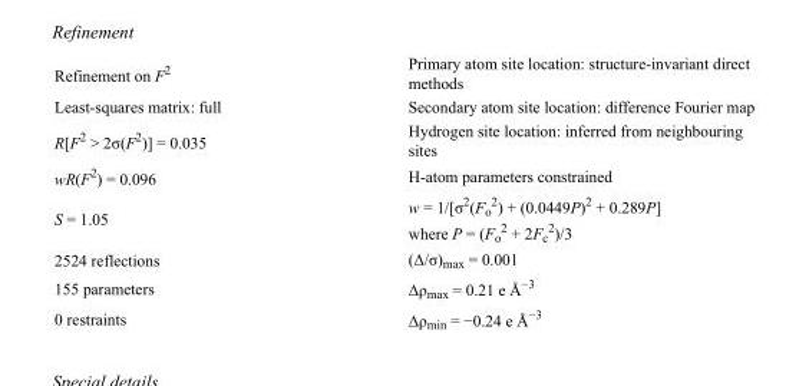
<table><tbody><tr><td>Refinement on F<sup>2</sup></td><td>Primary atom site location: structure-invariant direct methods</td></tr><tr><td>Least-squares matrix: full</td><td>Secondary atom site location: difference Fourier map</td></tr><tr><td>R[F<sup>2</sup> &gt; 2σ(F<sup>2</sup>)] = 0.035</td><td>Hydrogen site location: inferred from neighbouring sites</td></tr><tr><td>wR(F<sup>2</sup>) = 0.096</td><td>H-atom parameters constrained</td></tr><tr><td>S = 1.05</td><td>w = 1/[σ<sup>2</sup>(F<sub>o</sub> <sup>2</sup>) + (0.0449P)<sup>2</sup> + 0.289P] where P = (F<sub>o</sub> <sup>2</sup> + 2F<sub>c</sub> <sup>2</sup>)/3</td></tr><tr><td>2524 reflections</td><td>(Δ/σ)<sub>max</sub> = 0.001</td></tr><tr><td>155 parameters</td><td>Δρ<sub>max</sub> = 0.21 e Å<sup>−3</sup></td></tr><tr><td>0 restraints</td><td>Δρ<sub>min</sub> = −0.24 e Å<sup>−3</sup></td></tr></tbody></table>